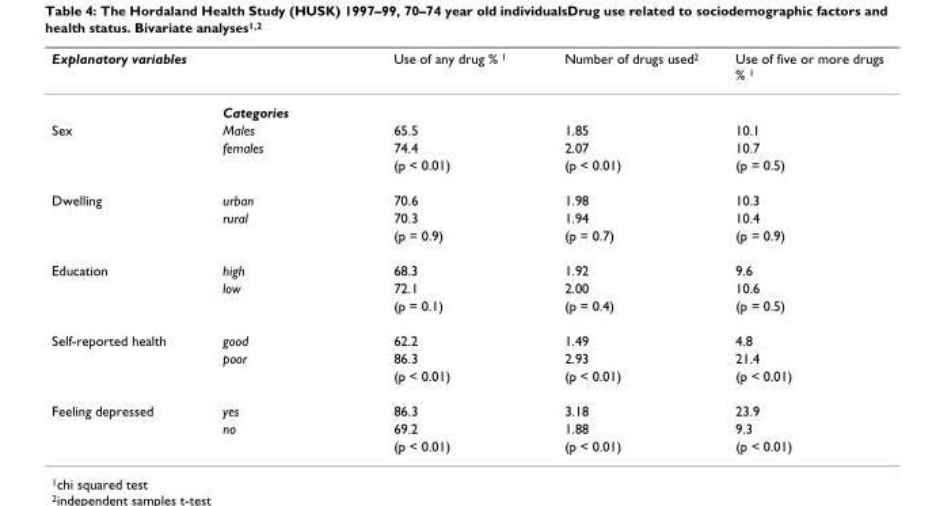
<table><thead><tr><td colspan="2">Explanatory variables</td><td rowspan="2">Use of any drug % 1</td><td rowspan="2">Number of drugs used2</td><td rowspan="2">Use of five or more drugs % 1</td></tr><tr><td></td><td>Categories</td></tr></thead><tbody><tr><td rowspan="3">Sex</td><td>Males</td><td>65.5</td><td>1.85</td><td>10.1</td></tr><tr><td>females</td><td>74.4</td><td>2.07</td><td>10.7</td></tr><tr><td></td><td>(p &lt; 0.01)</td><td>(p &lt; 0.01)</td><td>(p = 0.5)</td></tr><tr><td rowspan="3">Dwelling</td><td>urban</td><td>70.6</td><td>1.98</td><td>10.3</td></tr><tr><td>rural</td><td>70.3</td><td>1.94</td><td>10.4</td></tr><tr><td></td><td>(p = 0.9)</td><td>(p = 0.7)</td><td>(p = 0.9)</td></tr><tr><td rowspan="3">Education</td><td>high</td><td>68.3</td><td>1.92</td><td>9.6</td></tr><tr><td>low</td><td>72.1</td><td>2.00</td><td>10.6</td></tr><tr><td></td><td>(p = 0.1)</td><td>(p = 0.4)</td><td>(p = 0.5)</td></tr><tr><td rowspan="3">Self-reported health</td><td>good</td><td>62.2</td><td>1.49</td><td>4.8</td></tr><tr><td>poor</td><td>86.3</td><td>2.93</td><td>21.4</td></tr><tr><td></td><td>(p &lt; 0.01)</td><td>(p &lt; 0.01)</td><td>(p &lt; 0.01)</td></tr><tr><td rowspan="3">Feeling depressed</td><td>yes</td><td>86.3</td><td>3.18</td><td>23.9</td></tr><tr><td>no</td><td>69.2</td><td>1.88</td><td>9.3</td></tr><tr><td></td><td>(p &lt; 0.01)</td><td>(p &lt; 0.01)</td><td>(p &lt; 0.01)</td></tr></tbody></table>